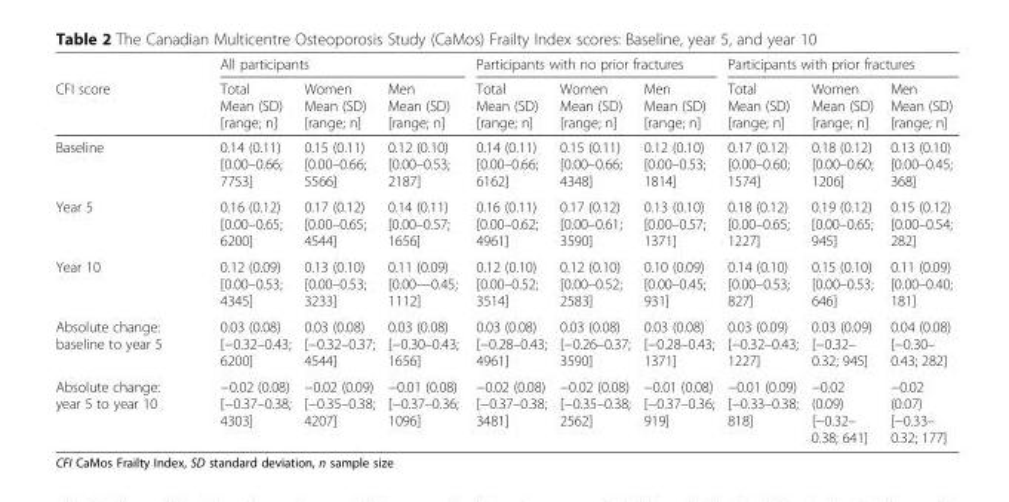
<table><thead><tr><td rowspan="2">CFI score</td><td colspan="3">All participants</td><td colspan="3">Participants with no prior fractures</td><td colspan="3">Participants with prior fractures</td></tr><tr><td>Total Mean (SD) [range; n]</td><td>Women Mean (SD) [range; n]</td><td>Men Mean (SD) [range; n]</td><td>Total Mean (SD) [range; n]</td><td>Women Mean (SD) [range; n]</td><td>Men Mean (SD) [range; n]</td><td>Total Mean (SD) [range; n]</td><td>Women Mean (SD) [range; n]</td><td>Men Mean (SD) [range; n]</td></tr></thead><tbody><tr><td>Baseline</td><td>0.14 (0.11) [0.00–0.66; 7753]</td><td>0.15 (0.11) [0.00–0.66; 5566]</td><td>0.12 (0.10) [0.00–0.53; 2187]</td><td>0.14 (0.11) [0.00–0.66; 6162]</td><td>0.15 (0.11) [0.00–0.66; 4348]</td><td>0.12 (0.10) [0.00–0.53; 1814]</td><td>0.17 (0.12) [0.00–0.60; 1574]</td><td>0.18 (0.12) [0.00–0.60; 1206]</td><td>0.13 (0.10) [0.00–0.45; 368]</td></tr><tr><td>Year 5</td><td>0.16 (0.12) [0.00–0.65; 6200]</td><td>0.17 (0.12) [0.00–0.65; 4544]</td><td>0.14 (0.11) [0.00–0.57; 1656]</td><td>0.16 (0.11) [0.00–0.62; 4961]</td><td>0.17 (0.12) [0.00–0.61; 3590]</td><td>0.13 (0.10) [0.00–0.57; 1371]</td><td>0.18 (0.12) [0.00–0.65; 1227]</td><td>0.19 (0.12) [0.00–0.65; 945]</td><td>0.15 (0.12) [0.00–0.54; 282]</td></tr><tr><td>Year 10</td><td>0.12 (0.09) [0.00–0.53; 4345]</td><td>0.13 (0.10) [0.00–0.53; 3233]</td><td>0.11 (0.09) [0.00—0.45; 1112]</td><td>0.12 (0.10) [0.00–0.52; 3514]</td><td>0.12 (0.10) [0.00–0.52; 2583]</td><td>0.10 (0.09) [0.00–0.45; 931]</td><td>0.14 (0.10) [0.00–0.53; 827]</td><td>0.15 (0.10) [0.00–0.53; 646]</td><td>0.11 (0.09) [0.00–0.40; 181]</td></tr><tr><td>Absolute change: baseline to year 5</td><td>0.03 (0.08) [−0.32–0.43; 6200]</td><td>0.03 (0.08) [−0.32–0.37; 4544]</td><td>0.03 (0.08) [−0.30–0.43; 1656]</td><td>0.03 (0.08) [−0.28–0.43; 4961]</td><td>0.03 (0.08) [−0.26–0.37; 3590]</td><td>0.03 (0.08) [−0.28–0.43; 1371]</td><td>0.03 (0.09) [−0.32–0.43; 1227]</td><td>0.03 (0.09) [−0.32– 0.32; 945]</td><td>0.04 (0.08) [−0.30– 0.43; 282]</td></tr><tr><td>Absolute change: year 5 to year 10</td><td>−0.02 (0.08) [−0.37–0.38; 4303]</td><td>−0.02 (0.09) [−0.35–0.38; 4207]</td><td>−0.01 (0.08) [−0.37–0.36; 1096]</td><td>−0.02 (0.08) [−0.37–0.38; 3481]</td><td>−0.02 (0.08) [−0.35–0.38; 2562]</td><td>−0.01 (0.08) [−0.37–0.36; 919]</td><td>−0.01 (0.09) [−0.33–0.38; 818]</td><td>−0.02 (0.09) [−0.32– 0.38; 641]</td><td>−0.02 (0.07) [−0.33– 0.32; 177]</td></tr></tbody></table>